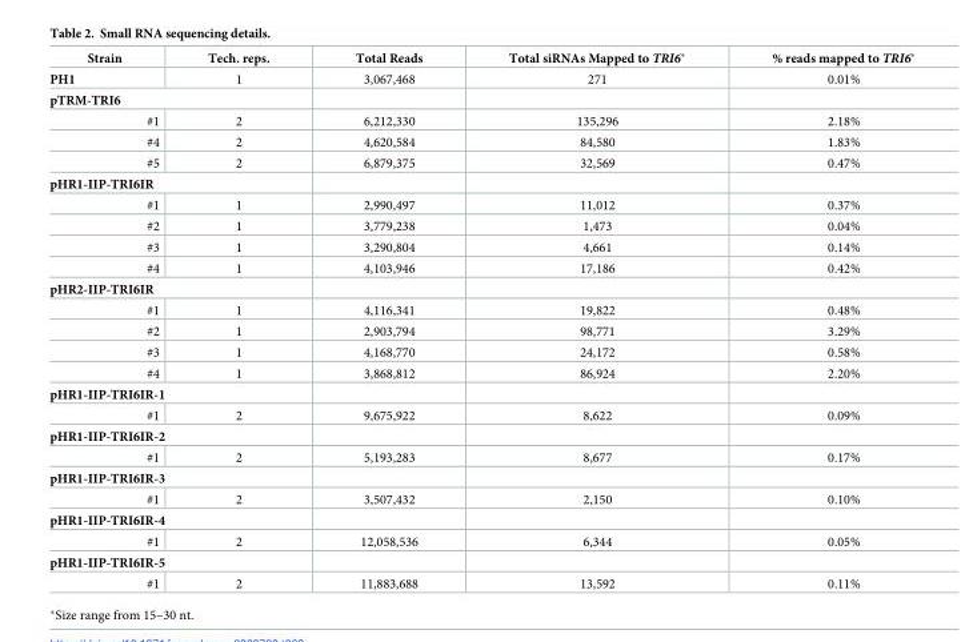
<table><thead><tr><td>Strain</td><td>Tech. reps.</td><td>Total Reads</td><td>Total siRNAs Mapped to TRI6*</td><td>% reads mapped to TRI6*</td></tr></thead><tbody><tr><td>PH1</td><td>1</td><td>3,067,468</td><td>271</td><td>0.01%</td></tr><tr><td colspan="5">pTRM-TRI6</td></tr><tr><td>#1</td><td>2</td><td>6,212,330</td><td>135,296</td><td>2.18%</td></tr><tr><td>#4</td><td>2</td><td>4,620,584</td><td>84,580</td><td>1.83%</td></tr><tr><td>#5</td><td>2</td><td>6,879,375</td><td>32,569</td><td>0.47%</td></tr><tr><td colspan="5">pHR1-IIP-TRI6IR</td></tr><tr><td>#1</td><td>1</td><td>2,990,497</td><td>11,012</td><td>0.37%</td></tr><tr><td>#2</td><td>1</td><td>3,779,238</td><td>1,473</td><td>0.04%</td></tr><tr><td>#3</td><td>1</td><td>3,290,804</td><td>4,661</td><td>0.14%</td></tr><tr><td>#4</td><td>1</td><td>4,103,946</td><td>17,186</td><td>0.42%</td></tr><tr><td colspan="5">pHR2-IIP-TRI6IR</td></tr><tr><td>#1</td><td>1</td><td>4,116,341</td><td>19,822</td><td>0.48%</td></tr><tr><td>#2</td><td>1</td><td>2,903,794</td><td>98,771</td><td>3.29%</td></tr><tr><td>#3</td><td>1</td><td>4,168,770</td><td>24,172</td><td>0.58%</td></tr><tr><td>#4</td><td>1</td><td>3,868,812</td><td>86,924</td><td>2.20%</td></tr><tr><td colspan="5">pHR1-IIP-TRI6IR-1</td></tr><tr><td>#1</td><td>2</td><td>9,675,922</td><td>8,622</td><td>0.09%</td></tr><tr><td colspan="5">pHR1-IIP-TRI6IR-2</td></tr><tr><td>#1</td><td>2</td><td>5,193,283</td><td>8,677</td><td>0.17%</td></tr><tr><td colspan="5">pHR1-IIP-TRI6IR-3</td></tr><tr><td>#1</td><td>2</td><td>3,507,432</td><td>2,150</td><td>0.10%</td></tr><tr><td colspan="5">pHR1-IIP-TRI6IR-4</td></tr><tr><td>#1</td><td>2</td><td>12,058,536</td><td>6,344</td><td>0.05%</td></tr><tr><td colspan="5">pHR1-IIP-TRI6IR-5</td></tr><tr><td>#1</td><td>2</td><td>11,883,688</td><td>13,592</td><td>0.11%</td></tr></tbody></table>